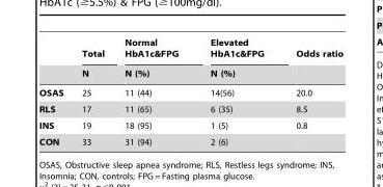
<table><thead><tr><td rowspan="2"></td><td rowspan="2">Total N</td><td rowspan="2">Normal HbA1c&amp;FPG N (%)</td><td rowspan="2">Elevated HbA1c&amp;FPG N (%)</td><td rowspan="2">Odds ratio</td></tr><tr></tr></thead><tbody><tr><td>OSAS</td><td>25</td><td>11 (44)</td><td>14(56)</td><td>20.0</td></tr><tr><td>RLS</td><td>17</td><td>11 (65)</td><td>6 (35)</td><td>8.5</td></tr><tr><td>INS</td><td>19</td><td>18 (95)</td><td>1 (5)</td><td>0.8</td></tr><tr><td>CON</td><td>33</td><td>31 (94)</td><td>2 (6)</td><td></td></tr></tbody></table>